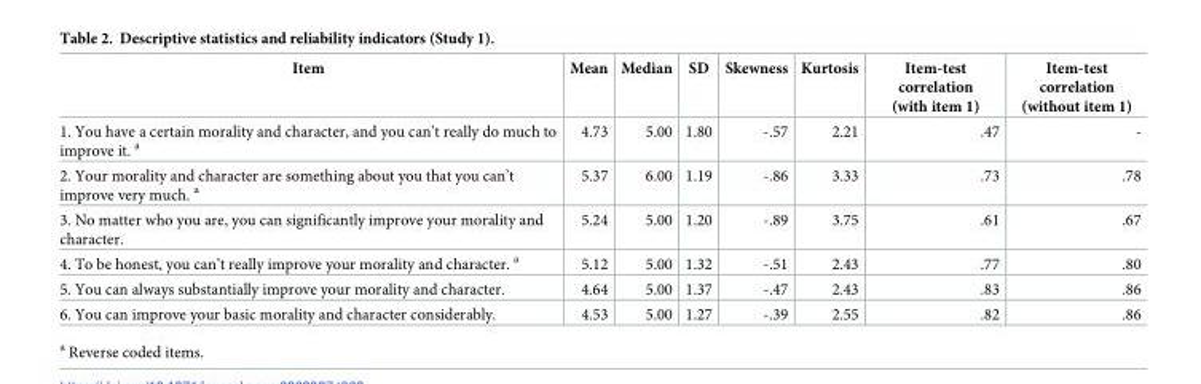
<table><thead><tr><td>Item</td><td>Mean</td><td>Median</td><td>SD</td><td>Skewness</td><td>Kurtosis</td><td>Item-test correlation (with item 1)</td><td>Item-test correlation (without item 1)</td></tr></thead><tbody><tr><td>1. You have a certain morality and character, and you can’t really do much to improve it. <sup>a</sup></td><td>4.73</td><td>5.00</td><td>1.80</td><td>-.57</td><td>2.21</td><td>.47</td><td>-</td></tr><tr><td>2. Your morality and character are something about you that you can’t improve very much. <sup>a</sup></td><td>5.37</td><td>6.00</td><td>1.19</td><td>-.86</td><td>3.33</td><td>.73</td><td>.78</td></tr><tr><td>3. No matter who you are, you can significantly improve your morality and character.</td><td>5.24</td><td>5.00</td><td>1.20</td><td>-.89</td><td>3.75</td><td>.61</td><td>.67</td></tr><tr><td>4. To be honest, you can’t really improve your morality and character. <sup>a</sup></td><td>5.12</td><td>5.00</td><td>1.32</td><td>-.51</td><td>2.43</td><td>.77</td><td>.80</td></tr><tr><td>5. You can always substantially improve your morality and character.</td><td>4.64</td><td>5.00</td><td>1.37</td><td>-.47</td><td>2.43</td><td>.83</td><td>.86</td></tr><tr><td>6. You can improve your basic morality and character considerably.</td><td>4.53</td><td>5.00</td><td>1.27</td><td>-.39</td><td>2.55</td><td>.82</td><td>.86</td></tr></tbody></table>